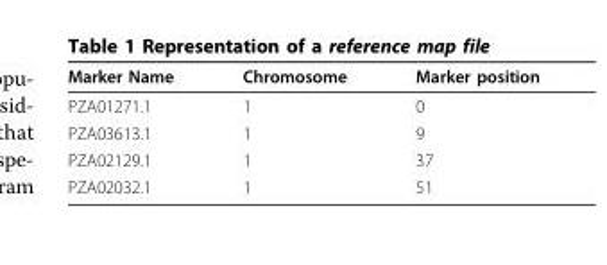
<table><thead><tr><td>Marker Name</td><td>Chromosome</td><td>Marker position</td></tr></thead><tbody><tr><td>PZA01271.1</td><td>1</td><td>0</td></tr><tr><td>PZA03613.1</td><td>1</td><td>9</td></tr><tr><td>PZA02129.1</td><td>1</td><td>37</td></tr><tr><td>PZA02032.1</td><td>1</td><td>51</td></tr></tbody></table>